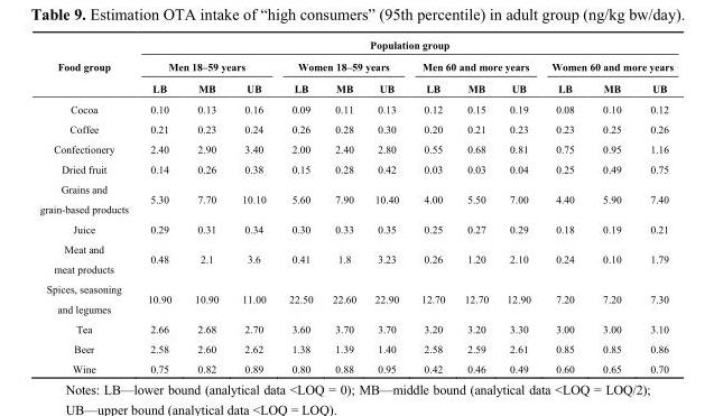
<table><thead><tr><td rowspan="3">Food group</td><td colspan="12">Population group</td></tr><tr><td colspan="3">Men 18–59 years</td><td colspan="3">Women 18–59 years</td><td colspan="3">Men 60 and more years</td><td colspan="3">Women 60 and more years</td></tr><tr><td>LB</td><td>MB</td><td>UB</td><td>LB</td><td>MB</td><td>UB</td><td>LB</td><td>MB</td><td>UB</td><td>LB</td><td>MB</td><td>UB</td></tr></thead><tbody><tr><td>Cocoa</td><td>0.10</td><td>0.13</td><td>0.16</td><td>0.09</td><td>0.11</td><td>0.13</td><td>0.12</td><td>0.15</td><td>0.19</td><td>0.08</td><td>0.10</td><td>0.12</td></tr><tr><td>Coffee</td><td>0.21</td><td>0.23</td><td>0.24</td><td>0.26</td><td>0.28</td><td>0.30</td><td>0.20</td><td>0.21</td><td>0.23</td><td>0.23</td><td>0.25</td><td>0.26</td></tr><tr><td>Confectionery</td><td>2.40</td><td>2.90</td><td>3.40</td><td>2.00</td><td>2.40</td><td>2.80</td><td>0.55</td><td>0.68</td><td>0.81</td><td>0.75</td><td>0.95</td><td>1.16</td></tr><tr><td>Dried fruit</td><td>0.14</td><td>0.26</td><td>0.38</td><td>0.15</td><td>0.28</td><td>0.42</td><td>0.03</td><td>0.03</td><td>0.04</td><td>0.25</td><td>0.49</td><td>0.75</td></tr><tr><td>Grains and grain-based products</td><td>5.30</td><td>7.70</td><td>10.10</td><td>5.60</td><td>7.90</td><td>10.40</td><td>4.00</td><td>5.50</td><td>7.00</td><td>4.40</td><td>5.90</td><td>7.40</td></tr><tr><td>Juice</td><td>0.29</td><td>0.31</td><td>0.34</td><td>0.30</td><td>0.33</td><td>0.35</td><td>0.25</td><td>0.27</td><td>0.29</td><td>0.18</td><td>0.19</td><td>0.21</td></tr><tr><td>Meat and meat products</td><td>0.48</td><td>2.1</td><td>3.6</td><td>0.41</td><td>1.8</td><td>3.23</td><td>0.26</td><td>1.20</td><td>2.10</td><td>0.24</td><td>0.10</td><td>1.79</td></tr><tr><td>Spices, seasoning and legumes</td><td>10.90</td><td>10.90</td><td>11.00</td><td>22.50</td><td>22.60</td><td>22.90</td><td>12.70</td><td>12.70</td><td>12.90</td><td>7.20</td><td>7.20</td><td>7.30</td></tr><tr><td>Tea</td><td>2.66</td><td>2.68</td><td>2.70</td><td>3.60</td><td>3.70</td><td>3.70</td><td>3.20</td><td>3.20</td><td>3.30</td><td>3.00</td><td>3.00</td><td>3.10</td></tr><tr><td>Beer</td><td>2.58</td><td>2.60</td><td>2.62</td><td>1.38</td><td>1.39</td><td>1.40</td><td>2.58</td><td>2.59</td><td>2.61</td><td>0.85</td><td>0.85</td><td>0.86</td></tr><tr><td>Wine</td><td>0.75</td><td>0.82</td><td>0.89</td><td>0.80</td><td>0.88</td><td>0.95</td><td>0.42</td><td>0.46</td><td>0.49</td><td>0.60</td><td>0.65</td><td>0.70</td></tr></tbody></table>